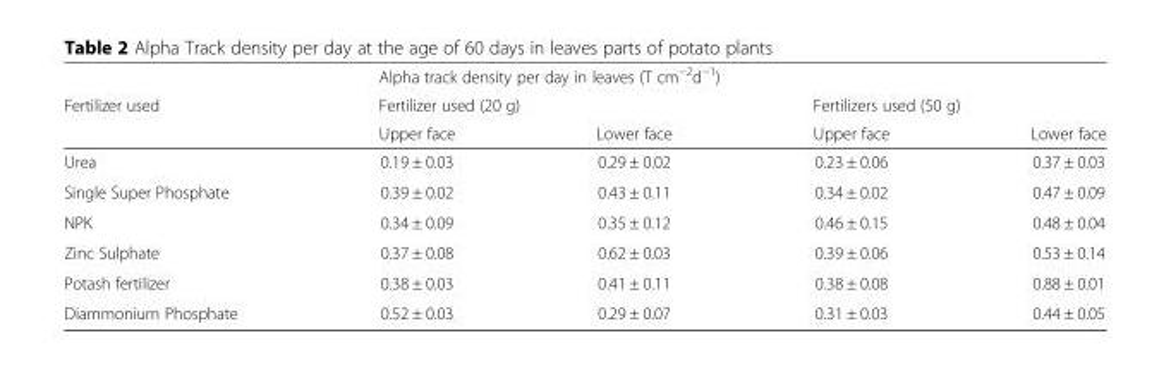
<table><thead><tr><td rowspan="3">Fertilizer used</td><td colspan="4">Alpha track density per day in leaves (T cm<sup>−2</sup>d<sup>−1</sup>)</td></tr><tr><td colspan="2">Fertilizer used (20 g)</td><td colspan="2">Fertilizers used (50 g)</td></tr><tr><td>Upper face</td><td>Lower face</td><td>Upper face</td><td>Lower face</td></tr></thead><tbody><tr><td>Urea</td><td>0.19 ± 0.03</td><td>0.29 ± 0.02</td><td>0.23 ± 0.06</td><td>0.37 ± 0.03</td></tr><tr><td>Single Super Phosphate</td><td>0.39 ± 0.02</td><td>0.43 ± 0.11</td><td>0.34 ± 0.02</td><td>0.47 ± 0.09</td></tr><tr><td>NPK</td><td>0.34 ± 0.09</td><td>0.35 ± 0.12</td><td>0.46 ± 0.15</td><td>0.48 ± 0.04</td></tr><tr><td>Zinc Sulphate</td><td>0.37 ± 0.08</td><td>0.62 ± 0.03</td><td>0.39 ± 0.06</td><td>0.53 ± 0.14</td></tr><tr><td>Potash fertilizer</td><td>0.38 ± 0.03</td><td>0.41 ± 0.11</td><td>0.38 ± 0.08</td><td>0.88 ± 0.01</td></tr><tr><td>Diammonium Phosphate</td><td>0.52 ± 0.03</td><td>0.29 ± 0.07</td><td>0.31 ± 0.03</td><td>0.44 ± 0.05</td></tr></tbody></table>